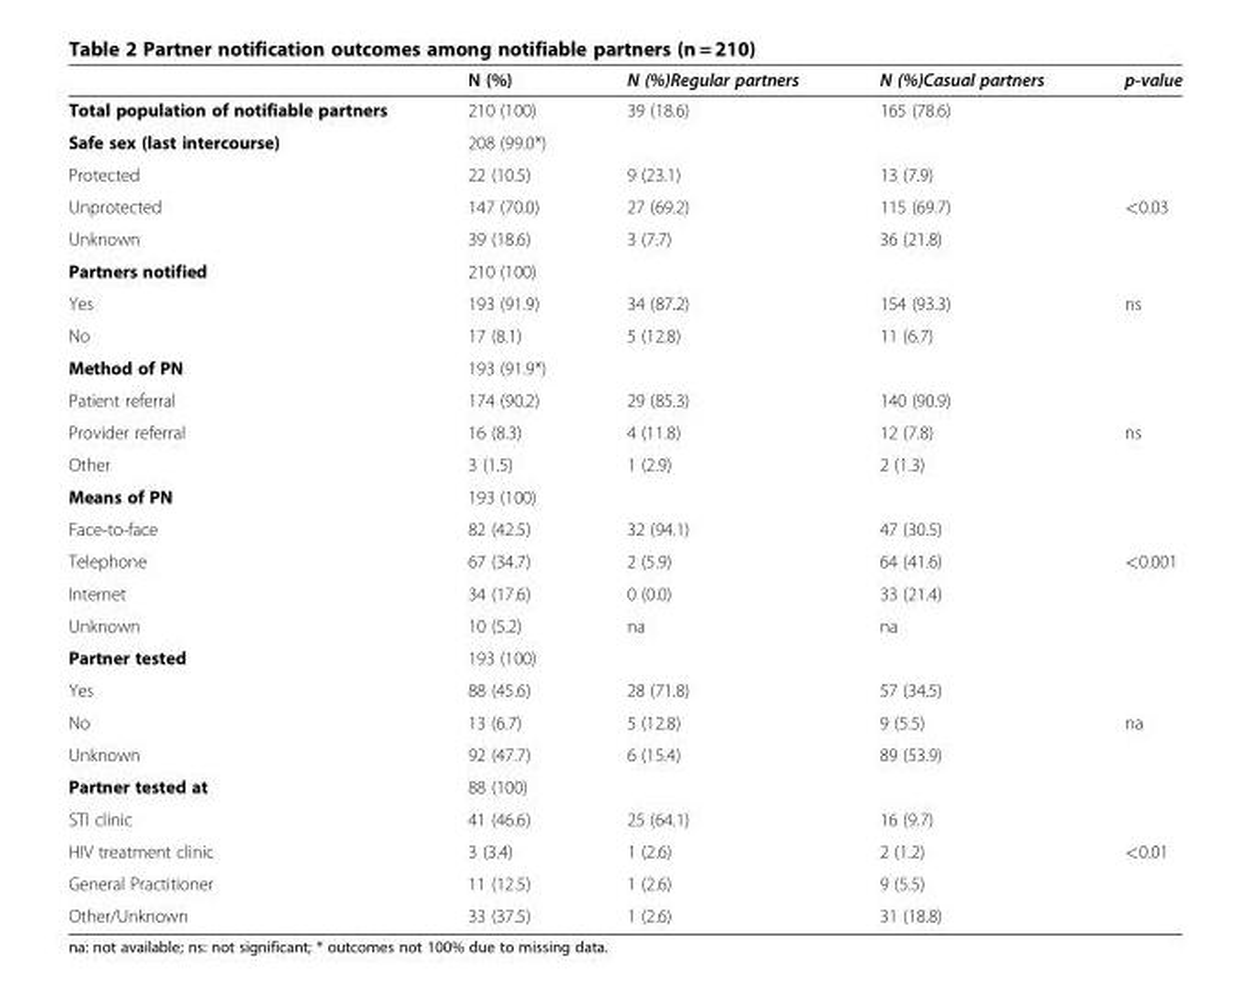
<table><thead><tr><td></td><td>N (%)</td><td>N (%)Regular partners</td><td>N (%)Casual partners</td><td>p-value</td></tr></thead><tbody><tr><td>Total population of notifiable partners</td><td>210 (100)</td><td>39 (18.6)</td><td>165 (78.6)</td><td></td></tr><tr><td>Safe sex (last intercourse)</td><td>208 (99.0*)</td><td></td><td></td><td></td></tr><tr><td>Protected</td><td>22 (10.5)</td><td>9 (23.1)</td><td>13 (7.9)</td><td></td></tr><tr><td>Unprotected</td><td>147 (70.0)</td><td>27 (69.2)</td><td>115 (69.7)</td><td>&lt;0.03</td></tr><tr><td>Unknown</td><td>39 (18.6)</td><td>3 (7.7)</td><td>36 (21.8)</td><td></td></tr><tr><td>Partners notified</td><td>210 (100)</td><td></td><td></td><td></td></tr><tr><td>Yes</td><td>193 (91.9)</td><td>34 (87.2)</td><td>154 (93.3)</td><td>ns</td></tr><tr><td>No</td><td>17 (8.1)</td><td>5 (12.8)</td><td>11 (6.7)</td><td></td></tr><tr><td>Method of PN</td><td>193 (91.9*)</td><td></td><td></td><td></td></tr><tr><td>Patient referral</td><td>174 (90.2)</td><td>29 (85.3)</td><td>140 (90.9)</td><td></td></tr><tr><td>Provider referral</td><td>16 (8.3)</td><td>4 (11.8)</td><td>12 (7.8)</td><td>ns</td></tr><tr><td>Other</td><td>3 (1.5)</td><td>1 (2.9)</td><td>2 (1.3)</td><td></td></tr><tr><td>Means of PN</td><td>193 (100)</td><td></td><td></td><td></td></tr><tr><td>Face-to-face</td><td>82 (42.5)</td><td>32 (94.1)</td><td>47 (30.5)</td><td></td></tr><tr><td>Telephone</td><td>67 (34.7)</td><td>2 (5.9)</td><td>64 (41.6)</td><td>&lt;0.001</td></tr><tr><td>Internet</td><td>34 (17.6)</td><td>0 (0.0)</td><td>33 (21.4)</td><td></td></tr><tr><td>Unknown</td><td>10 (5.2)</td><td>na</td><td>na</td><td></td></tr><tr><td>Partner tested</td><td>193 (100)</td><td></td><td></td><td></td></tr><tr><td>Yes</td><td>88 (45.6)</td><td>28 (71.8)</td><td>57 (34.5)</td><td></td></tr><tr><td>No</td><td>13 (6.7)</td><td>5 (12.8)</td><td>9 (5.5)</td><td>na</td></tr><tr><td>Unknown</td><td>92 (47.7)</td><td>6 (15.4)</td><td>89 (53.9)</td><td></td></tr><tr><td>Partner tested at</td><td>88 (100)</td><td></td><td></td><td></td></tr><tr><td>STI clinic</td><td>41 (46.6)</td><td>25 (64.1)</td><td>16 (9.7)</td><td></td></tr><tr><td>HIV treatment clinic</td><td>3 (3.4)</td><td>1 (2.6)</td><td>2 (1.2)</td><td>&lt;0.01</td></tr><tr><td>General Practitioner</td><td>11 (12.5)</td><td>1 (2.6)</td><td>9 (5.5)</td><td></td></tr><tr><td>Other/Unknown</td><td>33 (37.5)</td><td>1 (2.6)</td><td>31 (18.8)</td><td></td></tr></tbody></table>